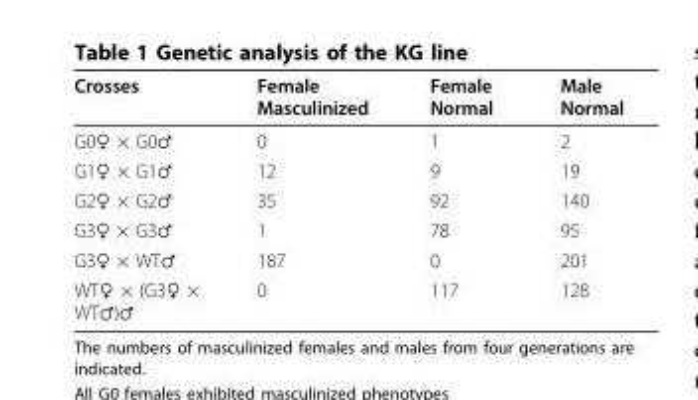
<table><thead><tr><td>Crosses</td><td>Female Masculinized</td><td>Female Normal</td><td>Male Normal</td></tr></thead><tbody><tr><td>G0♀ × G0♂</td><td>0</td><td>1</td><td>2</td></tr><tr><td>G1♀ × G1♂</td><td>12</td><td>9</td><td>19</td></tr><tr><td>G2♀ × G2♂</td><td>35</td><td>92</td><td>140</td></tr><tr><td>G3♀ × G3♂</td><td>1</td><td>78</td><td>95</td></tr><tr><td>G3♀ × WT♂</td><td>187</td><td>0</td><td>201</td></tr><tr><td>WT♀ × (G3♀ × WT♂)♂</td><td>0</td><td>117</td><td>128</td></tr></tbody></table>